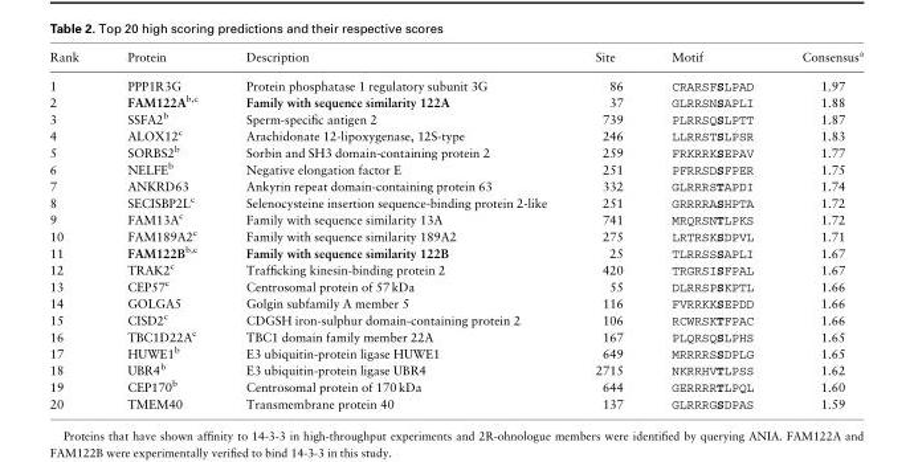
<table><thead><tr><td>Rank</td><td>Protein</td><td>Description</td><td>Site</td><td>Motif</td><td>Consensus<sup>a</sup></td></tr></thead><tbody><tr><td>1</td><td>PPP1R3G</td><td>Protein phosphatase 1 regulatory subunit 3G</td><td>86</td><td>CRARSFSLPAD</td><td>1.97</td></tr><tr><td>2</td><td>FAM122A<sup>b,c</sup></td><td>Family with sequence similarity 122A</td><td>37</td><td>GLRRSNSAPLI</td><td>1.88</td></tr><tr><td>3</td><td>SSFA2<sup>b</sup></td><td>Sperm-specific antigen 2</td><td>739</td><td>PLRRSQSLPTT</td><td>1.87</td></tr><tr><td>4</td><td>ALOX12<sup>c</sup></td><td>Arachidonate 12-lipoxygenase, 12S-type</td><td>246</td><td>LLRRSTSLPSR</td><td>1.83</td></tr><tr><td>5</td><td>SORBS2<sup>b</sup></td><td>Sorbin and SH3 domain-containing protein 2</td><td>259</td><td>FRKRRKSEPAV</td><td>1.77</td></tr><tr><td>6</td><td>NELFE<sup>b</sup></td><td>Negative elongation factor E</td><td>251</td><td>PFRRSDSFPER</td><td>1.75</td></tr><tr><td>7</td><td>ANKRD63</td><td>Ankyrin repeat domain-containing protein 63</td><td>332</td><td>GLRRRSTAPDI</td><td>1.74</td></tr><tr><td>8</td><td>SECISBP2L<sup>c</sup></td><td>Selenocysteine insertion sequence-binding protein 2-like</td><td>251</td><td>GRRRRASHPTA</td><td>1.72</td></tr><tr><td>9</td><td>FAM13A<sup>c</sup></td><td>Family with sequence similarity 13A</td><td>741</td><td>MRQRSNTLPKS</td><td>1.72</td></tr><tr><td>10</td><td>FAM189A2<sup>c</sup></td><td>Family with sequence similarity 189A2</td><td>275</td><td>LRTRSKSDPVL</td><td>1.71</td></tr><tr><td>11</td><td>FAM122B<sup>b,c</sup></td><td>Family with sequence similarity 122B</td><td>25</td><td>TLRRSSSAPLI</td><td>1.67</td></tr><tr><td>12</td><td>TRAK2<sup>c</sup></td><td>Trafficking kinesin-binding protein 2</td><td>420</td><td>TRGRSISFPAL</td><td>1.67</td></tr><tr><td>13</td><td>CEP57<sup>c</sup></td><td>Centrosomal protein of 57 kDa</td><td>55</td><td>DLRRSPSKPTL</td><td>1.66</td></tr><tr><td>14</td><td>GOLGA5</td><td>Golgin subfamily A member 5</td><td>116</td><td>FVRRKKSEPDD</td><td>1.66</td></tr><tr><td>15</td><td>CISD2<sup>c</sup></td><td>CDGSH iron-sulphur domain-containing protein 2</td><td>106</td><td>RCWRSKTFPAC</td><td>1.66</td></tr><tr><td>16</td><td>TBC1D22A<sup>c</sup></td><td>TBC1 domain family member 22A</td><td>167</td><td>PLQRSQSLPHS</td><td>1.65</td></tr><tr><td>17</td><td>HUWE1<sup>b</sup></td><td>E3 ubiquitin-protein ligase HUWE1</td><td>649</td><td>MRRRRSSDPLG</td><td>1.65</td></tr><tr><td>18</td><td>UBR4<sup>b</sup></td><td>E3 ubiquitin-protein ligase UBR4</td><td>2715</td><td>NKRRHVTLPSS</td><td>1.62</td></tr><tr><td>19</td><td>CEP170<sup>b</sup></td><td>Centrosomal protein of 170 kDa</td><td>644</td><td>GERRRRTLPQL</td><td>1.60</td></tr><tr><td>20</td><td>TMEM40</td><td>Transmembrane protein 40</td><td>137</td><td>GLRRRGSDPAS</td><td>1.59</td></tr></tbody></table>